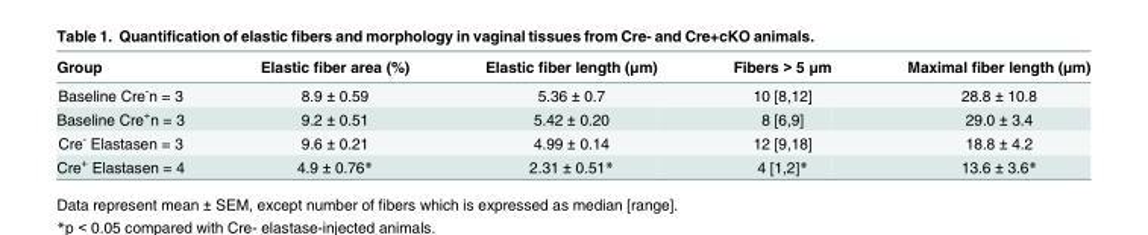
<table><thead><tr><td>Group</td><td>Elastic fiber area (%)</td><td>Elastic fiber length (μm)</td><td>Fibers &gt; 5 μm</td><td>Maximal fiber length (μm)</td></tr></thead><tbody><tr><td>Baseline Cre<sup>-</sup>n = 3</td><td>8.9 ± 0.59</td><td>5.36 ± 0.7</td><td>10 [8,12]</td><td>28.8 ± 10.8</td></tr><tr><td>Baseline Cre<sup>+</sup>n = 3</td><td>9.2 ± 0.51</td><td>5.42 ± 0.20</td><td>8 [6,9]</td><td>29.0 ± 3.4</td></tr><tr><td>Cre<sup>-</sup> Elastasen = 3</td><td>9.6 ± 0.21</td><td>4.99 ± 0.14</td><td>12 [9,18]</td><td>18.8 ± 4.2</td></tr><tr><td>Cre<sup>+</sup> Elastasen = 4</td><td>4.9 ± 0.76*</td><td>2.31 ± 0.51*</td><td>4 [1,2]*</td><td>13.6 ± 3.6*</td></tr></tbody></table>